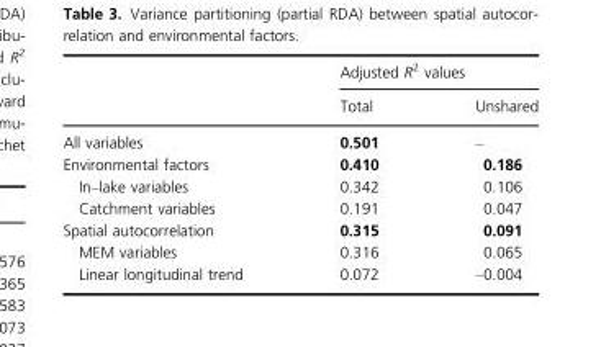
<table><thead><tr><td rowspan="2"></td><td colspan="2">Adjusted R<sup>2</sup> values</td></tr><tr><td>Total</td><td>Unshared</td></tr></thead><tbody><tr><td>All variables</td><td>0.501</td><td>–</td></tr><tr><td>Environmental factors</td><td>0.410</td><td>0.186</td></tr><tr><td>In–lake variables</td><td>0.342</td><td>0.106</td></tr><tr><td>Catchment variables</td><td>0.191</td><td>0.047</td></tr><tr><td>Spatial autocorrelation</td><td>0.315</td><td>0.091</td></tr><tr><td>MEM variables</td><td>0.316</td><td>0.065</td></tr><tr><td>Linear longitudinal trend</td><td>0.072</td><td>–0.004</td></tr></tbody></table>